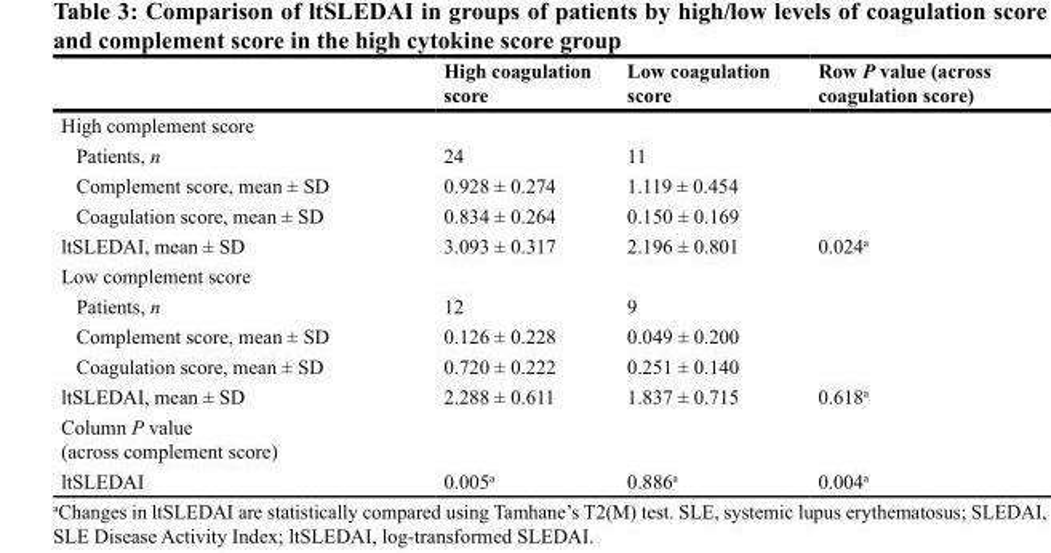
<table><thead><tr><td></td><td>High coagulation score</td><td>Low coagulation score</td><td>Row P value (across coagulation score)</td></tr></thead><tbody><tr><td colspan="4">High complement score</td></tr><tr><td>Patients, n</td><td>24</td><td>11</td><td></td></tr><tr><td>Complement score, mean ± SD</td><td>0.928 ± 0.274</td><td>1.119 ± 0.454</td><td></td></tr><tr><td>Coagulation score, mean ± SD</td><td>0.834 ± 0.264</td><td>0.150 ± 0.169</td><td></td></tr><tr><td>ltSLEDAI, mean ± SD</td><td>3.093 ± 0.317</td><td>2.196 ± 0.801</td><td>0.024<sup>a</sup></td></tr><tr><td colspan="4">Low complement score</td></tr><tr><td>Patients, n</td><td>12</td><td>9</td><td></td></tr><tr><td>Complement score, mean ± SD</td><td>0.126 ± 0.228</td><td>0.049 ± 0.200</td><td></td></tr><tr><td>Coagulation score, mean ± SD</td><td>0.720 ± 0.222</td><td>0.251 ± 0.140</td><td></td></tr><tr><td>ltSLEDAI, mean ± SD</td><td>2.288 ± 0.611</td><td>1.837 ± 0.715</td><td>0.618<sup>a</sup></td></tr><tr><td colspan="4">Column P value (across complement score)</td></tr><tr><td>ltSLEDAI</td><td>0.005<sup>a</sup></td><td>0.886<sup>a</sup></td><td>0.004<sup>a</sup></td></tr></tbody></table>